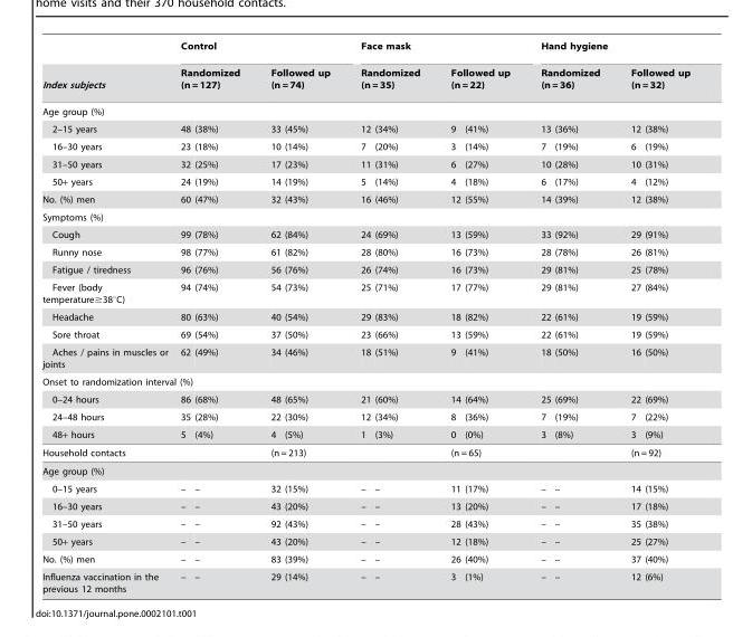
<table><thead><tr><td rowspan="2">Index subjects</td><td colspan="4">Control</td><td colspan="4">Face mask</td><td colspan="4">Hand hygiene</td></tr><tr><td colspan="2">Randomized (n = 127)</td><td colspan="2">Followed up (n = 74)</td><td colspan="2">Randomized (n = 35)</td><td colspan="2">Followed up (n = 22)</td><td colspan="2">Randomized (n = 36)</td><td colspan="2">Followed up (n = 32)</td></tr><tr><td colspan="13">Age group (%)</td></tr><tr><td>2–15 years</td><td>48</td><td>(38%)</td><td>33</td><td>(45%)</td><td>12</td><td>(34%)</td><td>9</td><td>(41%)</td><td>13</td><td>(36%)</td><td>12</td><td>(38%)</td></tr></thead><tbody><tr><td>16–30 years</td><td>23</td><td>(18%)</td><td>10</td><td>(14%)</td><td>7</td><td>(20%)</td><td>3</td><td>(14%)</td><td>7</td><td>(19%)</td><td>6</td><td>(19%)</td></tr><tr><td>31–50 years</td><td>32</td><td>(25%)</td><td>17</td><td>(23%)</td><td>11</td><td>(31%)</td><td>6</td><td>(27%)</td><td>10</td><td>(28%)</td><td>10</td><td>(31%)</td></tr><tr><td>50+ years</td><td>24</td><td>(19%)</td><td>14</td><td>(19%)</td><td>5</td><td>(14%)</td><td>4</td><td>(18%)</td><td>6</td><td>(17%)</td><td>4</td><td>(12%)</td></tr><tr><td>No. (%) men</td><td>60</td><td>(47%)</td><td>32</td><td>(43%)</td><td>16</td><td>(46%)</td><td>12</td><td>(55%)</td><td>14</td><td>(39%)</td><td>12</td><td>(38%)</td></tr><tr><td colspan="13">Symptoms (%)</td></tr><tr><td>Cough</td><td>99</td><td>(78%)</td><td>62</td><td>(84%)</td><td>24</td><td>(69%)</td><td>13</td><td>(59%)</td><td>33</td><td>(92%)</td><td>29</td><td>(91%)</td></tr><tr><td>Runny nose</td><td>98</td><td>(77%)</td><td>61</td><td>(82%)</td><td>28</td><td>(80%)</td><td>16</td><td>(73%)</td><td>28</td><td>(78%)</td><td>26</td><td>(81%)</td></tr><tr><td>Fatigue / tiredness</td><td>96</td><td>(76%)</td><td>56</td><td>(76%)</td><td>26</td><td>(74%)</td><td>16</td><td>(73%)</td><td>29</td><td>(81%)</td><td>25</td><td>(78%)</td></tr><tr><td>Fever (body temperature≥38°C)</td><td>94</td><td>(74%)</td><td>54</td><td>(73%)</td><td>25</td><td>(71%)</td><td>17</td><td>(77%)</td><td>29</td><td>(81%)</td><td>27</td><td>(84%)</td></tr><tr><td>Headache</td><td>80</td><td>(63%)</td><td>40</td><td>(54%)</td><td>29</td><td>(83%)</td><td>18</td><td>(82%)</td><td>22</td><td>(61%)</td><td>19</td><td>(59%)</td></tr><tr><td>Sore throat</td><td>69</td><td>(54%)</td><td>37</td><td>(50%)</td><td>23</td><td>(66%)</td><td>13</td><td>(59%)</td><td>22</td><td>(61%)</td><td>19</td><td>(59%)</td></tr><tr><td>Aches / pains in muscles or joints</td><td>62</td><td>(49%)</td><td>34</td><td>(46%)</td><td>18</td><td>(51%)</td><td>9</td><td>(41%)</td><td>18</td><td>(50%)</td><td>16</td><td>(50%)</td></tr><tr><td colspan="13">Onset to randomization interval (%)</td></tr><tr><td>0–24 hours</td><td>86</td><td>(68%)</td><td>48</td><td>(65%)</td><td>21</td><td>(60%)</td><td>14</td><td>(64%)</td><td>25</td><td>(69%)</td><td>22</td><td>(69%)</td></tr><tr><td>24–48 hours</td><td>35</td><td>(28%)</td><td>22</td><td>(30%)</td><td>12</td><td>(34%)</td><td>8</td><td>(36%)</td><td>7</td><td>(19%)</td><td>7</td><td>(22%)</td></tr><tr><td>48+ hours</td><td>5</td><td>(4%)</td><td>4</td><td>(5%)</td><td>1</td><td>(3%)</td><td>0</td><td>(0%)</td><td>3</td><td>(8%)</td><td>3</td><td>(9%)</td></tr><tr><td>Household contacts</td><td></td><td></td><td colspan="2">(n = 213)</td><td></td><td></td><td colspan="2">(n = 65)</td><td></td><td></td><td colspan="2">(n = 92)</td></tr><tr><td colspan="13">Age group (%)</td></tr><tr><td>0–15 years</td><td>–</td><td>–</td><td>32</td><td>(15%)</td><td>–</td><td>–</td><td>11</td><td>(17%)</td><td>–</td><td>–</td><td>14</td><td>(15%)</td></tr><tr><td>16–30 years</td><td>–</td><td>–</td><td>43</td><td>(20%)</td><td>–</td><td>–</td><td>13</td><td>(20%)</td><td>–</td><td>–</td><td>17</td><td>(18%)</td></tr><tr><td>31–50 years</td><td>–</td><td>–</td><td>92</td><td>(43%)</td><td>–</td><td>–</td><td>28</td><td>(43%)</td><td>–</td><td>–</td><td>35</td><td>(38%)</td></tr><tr><td>50+ years</td><td>–</td><td>–</td><td>43</td><td>(20%)</td><td>–</td><td>–</td><td>12</td><td>(18%)</td><td>–</td><td>–</td><td>25</td><td>(27%)</td></tr><tr><td>No. (%) men</td><td>–</td><td>–</td><td>83</td><td>(39%)</td><td>–</td><td>–</td><td>26</td><td>(40%)</td><td>–</td><td>–</td><td>37</td><td>(40%)</td></tr><tr><td>Influenza vaccination in the previous 12 months</td><td>–</td><td>–</td><td>29</td><td>(14%)</td><td>–</td><td>–</td><td>3</td><td>(1%)</td><td>–</td><td>–</td><td>12</td><td>(6%)</td></tr></tbody></table>